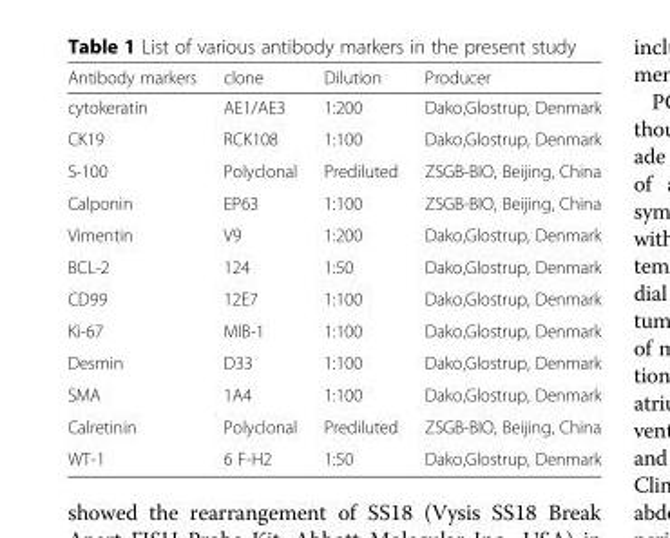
<table><thead><tr><td>Antibody markers</td><td>clone</td><td>Dilution</td><td>Producer</td></tr></thead><tbody><tr><td>cytokeratin</td><td>AE1/AE3</td><td>1:200</td><td>Dako,Glostrup, Denmark</td></tr><tr><td>CK19</td><td>RCK108</td><td>1:100</td><td>Dako,Glostrup, Denmark</td></tr><tr><td>S-100</td><td>Polyclonal</td><td>Prediluted</td><td>ZSGB-BIO, Beijing, China</td></tr><tr><td>Calponin</td><td>EP63</td><td>1:100</td><td>ZSGB-BIO, Beijing, China</td></tr><tr><td>Vimentin</td><td>V9</td><td>1:200</td><td>Dako,Glostrup, Denmark</td></tr><tr><td>BCL-2</td><td>124</td><td>1:50</td><td>Dako,Glostrup, Denmark</td></tr><tr><td>CD99</td><td>12E7</td><td>1:100</td><td>Dako,Glostrup, Denmark</td></tr><tr><td>Ki-67</td><td>MIB-1</td><td>1:100</td><td>Dako,Glostrup, Denmark</td></tr><tr><td>Desmin</td><td>D33</td><td>1:100</td><td>Dako,Glostrup, Denmark</td></tr><tr><td>SMA</td><td>1A4</td><td>1:100</td><td>Dako,Glostrup, Denmark</td></tr><tr><td>Calretinin</td><td>Polyclonal</td><td>Prediluted</td><td>ZSGB-BIO, Beijing, China</td></tr><tr><td>WT-1</td><td>6 F-H2</td><td>1:50</td><td>Dako,Glostrup, Denmark</td></tr></tbody></table>